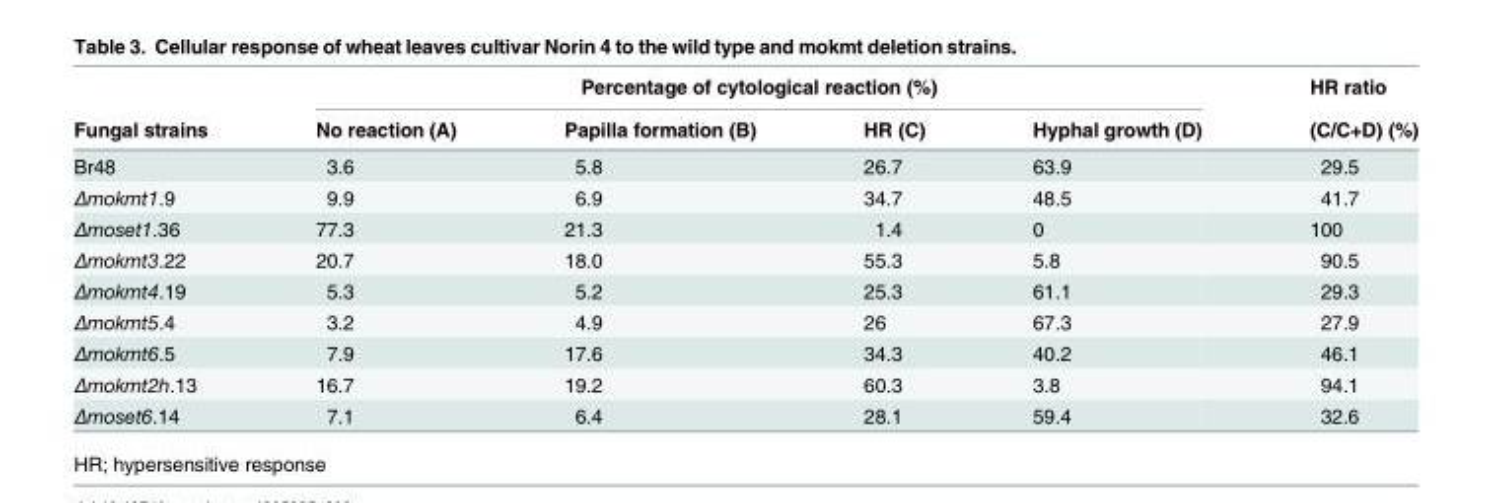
<table><thead><tr><td rowspan="2">Fungal strains</td><td colspan="4">Percentage of cytological reaction (%)</td><td rowspan="2">HR ratio (C/C+D) (%)</td></tr><tr><td>No reaction (A)</td><td>Papilla formation (B)</td><td>HR (C)</td><td>Hyphal growth (D)</td></tr></thead><tbody><tr><td>Br48</td><td>3.6</td><td>5.8</td><td>26.7</td><td>63.9</td><td>29.5</td></tr><tr><td>Δmokmt1.9</td><td>9.9</td><td>6.9</td><td>34.7</td><td>48.5</td><td>41.7</td></tr><tr><td>Δmoset1.36</td><td>77.3</td><td>21.3</td><td>1.4</td><td>0</td><td>100</td></tr><tr><td>Δmokmt3.22</td><td>20.7</td><td>18.0</td><td>55.3</td><td>5.8</td><td>90.5</td></tr><tr><td>Δmokmt4.19</td><td>5.3</td><td>5.2</td><td>25.3</td><td>61.1</td><td>29.3</td></tr><tr><td>Δmokmt5.4</td><td>3.2</td><td>4.9</td><td>26</td><td>67.3</td><td>27.9</td></tr><tr><td>Δmokmt6.5</td><td>7.9</td><td>17.6</td><td>34.3</td><td>40.2</td><td>46.1</td></tr><tr><td>Δmokmt2h.13</td><td>16.7</td><td>19.2</td><td>60.3</td><td>3.8</td><td>94.1</td></tr><tr><td>Δmoset6.14</td><td>7.1</td><td>6.4</td><td>28.1</td><td>59.4</td><td>32.6</td></tr></tbody></table>